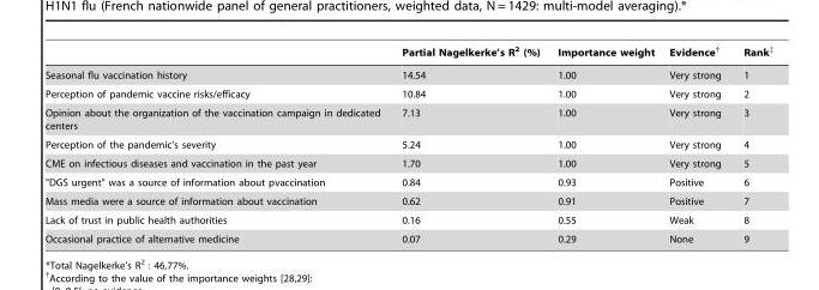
<table><thead><tr><td></td><td>Partial Nagelkerke’s R<sup>2</sup> (%)</td><td>Importance weight</td><td>Evidence†</td><td>Rank‡</td></tr></thead><tbody><tr><td>Seasonal flu vaccination history</td><td>14.54</td><td>1.00</td><td>Very strong</td><td>1</td></tr><tr><td>Perception of pandemic vaccine risks/efficacy</td><td>10.84</td><td>1.00</td><td>Very strong</td><td>2</td></tr><tr><td>Opinion about the organization of the vaccination campaign in dedicated centers</td><td>7.13</td><td>1.00</td><td>Very strong</td><td>3</td></tr><tr><td>Perception of the pandemic’s severity</td><td>5.24</td><td>1.00</td><td>Very strong</td><td>4</td></tr><tr><td>CME on infectious diseases and vaccination in the past year</td><td>1.70</td><td>1.00</td><td>Very strong</td><td>5</td></tr><tr><td>&quot;DGS urgent&quot; was a source of information about pvaccination</td><td>0.84</td><td>0.93</td><td>Positive</td><td>6</td></tr><tr><td>Mass media were a source of information about vaccination</td><td>0.62</td><td>0.91</td><td>Positive</td><td>7</td></tr><tr><td>Lack of trust in public health authorities</td><td>0.16</td><td>0.55</td><td>Weak</td><td>8</td></tr><tr><td>Occasional practice of alternative medicine</td><td>0.07</td><td>0.29</td><td>None</td><td>9</td></tr></tbody></table>